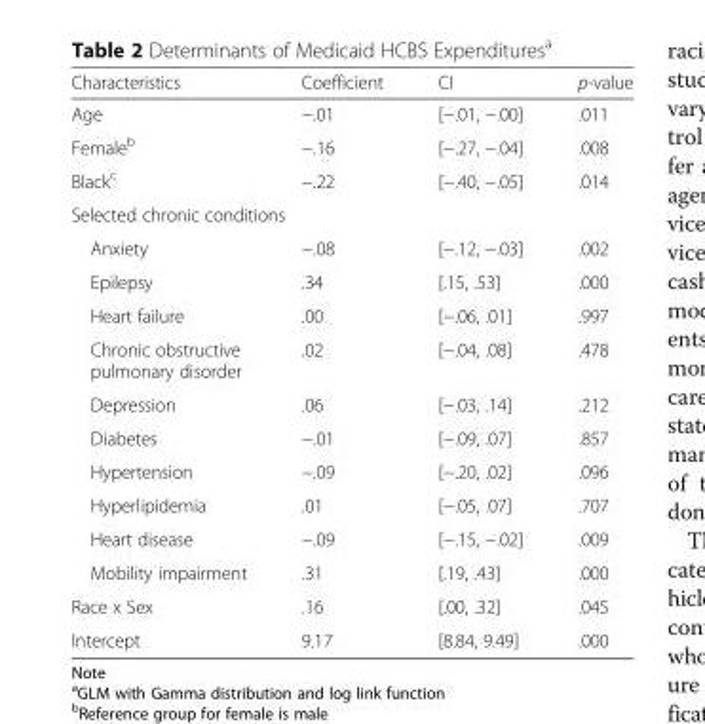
<table><thead><tr><td>Characteristics</td><td>Coefficient</td><td>CI</td><td>p-value</td></tr></thead><tbody><tr><td>Age</td><td>−.01</td><td>[−.01, −.00]</td><td>.011</td></tr><tr><td>Female<sup>b</sup></td><td>−.16</td><td>[−.27, −.04]</td><td>.008</td></tr><tr><td>Black<sup>c</sup></td><td>−.22</td><td>[−.40, −.05]</td><td>.014</td></tr><tr><td colspan="4">Selected chronic conditions</td></tr><tr><td>Anxiety</td><td>−.08</td><td>[−.12, −.03]</td><td>.002</td></tr><tr><td>Epilepsy</td><td>.34</td><td>[.15, .53]</td><td>.000</td></tr><tr><td>Heart failure</td><td>.00</td><td>[−.06, .01]</td><td>.997</td></tr><tr><td>Chronic obstructive pulmonary disorder</td><td>.02</td><td>[−.04, .08]</td><td>.478</td></tr><tr><td>Depression</td><td>.06</td><td>[−.03, .14]</td><td>.212</td></tr><tr><td>Diabetes</td><td>−.01</td><td>[−.09, .07]</td><td>.857</td></tr><tr><td>Hypertension</td><td>−.09</td><td>[−.20, .02]</td><td>.096</td></tr><tr><td>Hyperlipidemia</td><td>.01</td><td>[−.05, .07]</td><td>.707</td></tr><tr><td>Heart disease</td><td>−.09</td><td>[−.15, −.02]</td><td>.009</td></tr><tr><td>Mobility impairment</td><td>.31</td><td>[.19, .43]</td><td>.000</td></tr><tr><td>Race x Sex</td><td>.16</td><td>[.00, .32]</td><td>.045</td></tr><tr><td>Intercept</td><td>9.17</td><td>[8.84, 9.49]</td><td>.000</td></tr></tbody></table>